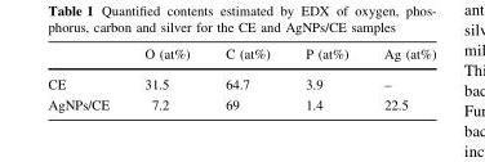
<table><thead><tr><td></td><td>O (at%)</td><td>C (at%)</td><td>P (at%)</td><td>Ag (at%)</td></tr></thead><tbody><tr><td>CE</td><td>31.5</td><td>64.7</td><td>3.9</td><td>–</td></tr><tr><td>AgNPs/CE</td><td>7.2</td><td>69</td><td>1.4</td><td>22.5</td></tr></tbody></table>